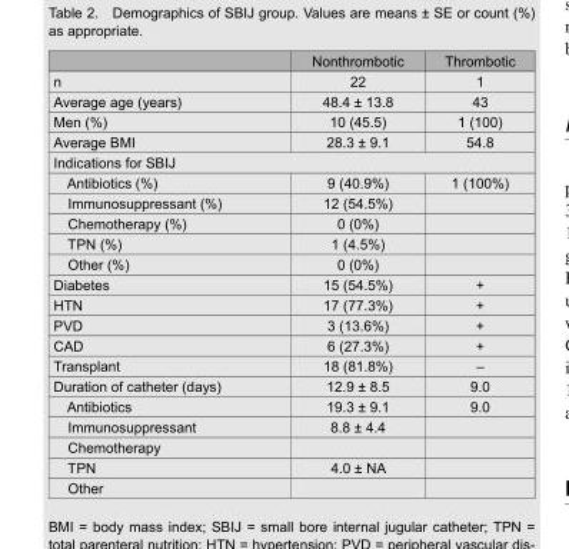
<table><thead><tr><td></td><td>Nonthrombotic</td><td>Thrombotic</td></tr></thead><tbody><tr><td>n</td><td>22</td><td>1</td></tr><tr><td>Average age (years)</td><td>48.4 ± 13.8</td><td>43</td></tr><tr><td>Men (%)</td><td>10 (45.5)</td><td>1 (100)</td></tr><tr><td>Average BMI</td><td>28.3 ± 9.1</td><td>54.8</td></tr><tr><td colspan="3">Indications for SBIJ</td></tr><tr><td>Antibiotics (%)</td><td>9 (40.9%)</td><td>1 (100%)</td></tr><tr><td>Immunosuppressant (%)</td><td>12 (54.5%)</td><td></td></tr><tr><td>Chemotherapy (%)</td><td>0 (0%)</td><td></td></tr><tr><td>TPN (%)</td><td>1 (4.5%)</td><td></td></tr><tr><td>Other (%)</td><td>0 (0%)</td><td></td></tr><tr><td>Diabetes</td><td>15 (54.5%)</td><td>+</td></tr><tr><td>HTN</td><td>17 (77.3%)</td><td>+</td></tr><tr><td>PVD</td><td>3 (13.6%)</td><td>+</td></tr><tr><td>CAD</td><td>6 (27.3%)</td><td>+</td></tr><tr><td>Transplant</td><td>18 (81.8%)</td><td>–</td></tr><tr><td>Duration of catheter (days)</td><td>12.9 ± 8.5</td><td>9.0</td></tr><tr><td>Antibiotics</td><td>19.3 ± 9.1</td><td>9.0</td></tr><tr><td>Immunosuppressant</td><td>8.8 ± 4.4</td><td></td></tr><tr><td colspan="3">Chemotherapy</td></tr><tr><td>TPN</td><td>4.0 ± NA</td><td></td></tr><tr><td>Other</td><td></td><td></td></tr></tbody></table>